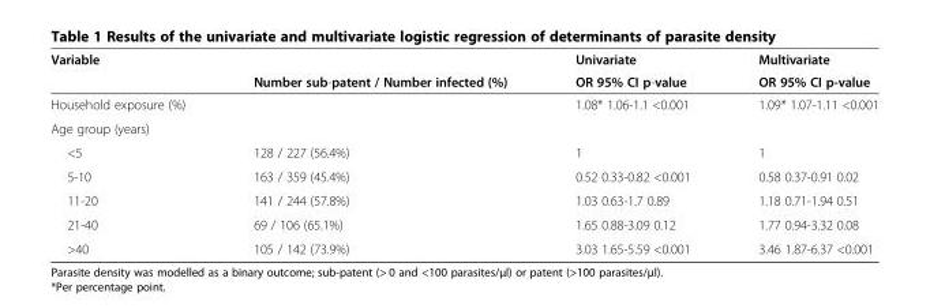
<table><thead><tr><td rowspan="2">Variable</td><td rowspan="2">Number sub-patent / Number infected (%)</td><td rowspan="2">Univariate OR 95% CI p-value</td><td rowspan="2">Multivariate OR 95% CI p-value</td></tr><tr></tr></thead><tbody><tr><td>Household exposure (%)</td><td></td><td>1.08* 1.06-1.1 &lt;0.001</td><td>1.09* 1.07-1.11 &lt;0.001</td></tr><tr><td colspan="4">Age group (years)</td></tr><tr><td>&lt;5</td><td>128 / 227 (56.4%)</td><td>1</td><td>1</td></tr><tr><td>5-10</td><td>163 / 359 (45.4%)</td><td>0.52 0.33-0.82 &lt;0.001</td><td>0.58 0.37-0.91 0.02</td></tr><tr><td>11-20</td><td>141 / 244 (57.8%)</td><td>1.03 0.63-1.7 0.89</td><td>1.18 0.71-1.94 0.51</td></tr><tr><td>21-40</td><td>69 / 106 (65.1%)</td><td>1.65 0.88-3.09 0.12</td><td>1.77 0.94-3.32 0.08</td></tr><tr><td>&gt;40</td><td>105 / 142 (73.9%)</td><td>3.03 1.65-5.59 &lt;0.001</td><td>3.46 1.87-6.37 &lt;0.001</td></tr></tbody></table>